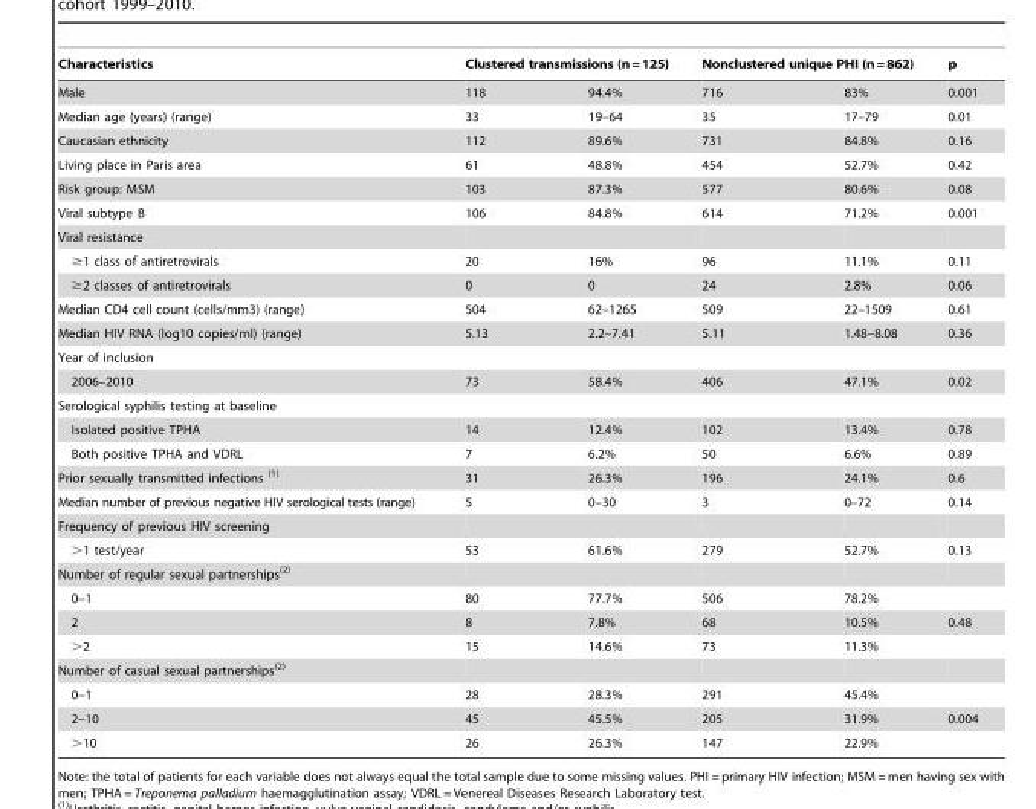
<table><thead><tr><td rowspan="2">Characteristics Male</td><td colspan="2">Clustered transmissions (n=125)</td><td colspan="2">Nonclustered unique PHI (n=862)</td><td rowspan="2">p 0.001</td></tr><tr><td>118</td><td>94.4%</td><td>716</td><td>83%</td></tr></thead><tbody><tr><td>Median age (years) (range)</td><td>33</td><td>19–64</td><td>35</td><td>17–79</td><td>0.01</td></tr><tr><td>Caucasian ethnicity</td><td>112</td><td>89.6%</td><td>731</td><td>84.8%</td><td>0.16</td></tr><tr><td>Living place in Paris area</td><td>61</td><td>48.8%</td><td>454</td><td>52.7%</td><td>0.42</td></tr><tr><td>Risk group: MSM</td><td>103</td><td>87.3%</td><td>577</td><td>80.6%</td><td>0.08</td></tr><tr><td>Viral subtype B</td><td>106</td><td>84.8%</td><td>614</td><td>71.2%</td><td>0.001</td></tr><tr><td colspan="6">Viral resistance</td></tr><tr><td>≥1 class of antiretrovirals</td><td>20</td><td>16%</td><td>96</td><td>11.1%</td><td>0.11</td></tr><tr><td>≥2 classes of antiretrovirals</td><td>0</td><td>0</td><td>24</td><td>2.8%</td><td>0.06</td></tr><tr><td>Median CD4 cell count (cells/mm3) (range)</td><td>504</td><td>62–1265</td><td>509</td><td>22–1509</td><td>0.61</td></tr><tr><td>Median HIV RNA (log10 copies/ml) (range)</td><td>5.13</td><td>2.2–7.41</td><td>5.11</td><td>1.48–8.08</td><td>0.36</td></tr><tr><td colspan="6">Year of inclusion</td></tr><tr><td>2006–2010</td><td>73</td><td>58.4%</td><td>406</td><td>47.1%</td><td>0.02</td></tr><tr><td colspan="6">Serological syphilis testing at baseline</td></tr><tr><td>Isolated positive TPHA</td><td>14</td><td>12.4%</td><td>102</td><td>13.4%</td><td>0.78</td></tr><tr><td>Both positive TPHA and VDRL</td><td>7</td><td>6.2%</td><td>50</td><td>6.6%</td><td>0.89</td></tr><tr><td>Prior sexually transmitted infections (1)</td><td>31</td><td>26.3%</td><td>196</td><td>24.1%</td><td>0.6</td></tr><tr><td>Median number of previous negative HIV serological tests (range)</td><td>5</td><td>0–30</td><td>3</td><td>0–72</td><td>0.14</td></tr><tr><td colspan="6">Frequency of previous HIV screening</td></tr><tr><td>&gt;1 test/year</td><td>53</td><td>61.6%</td><td>279</td><td>52.7%</td><td>0.13</td></tr><tr><td colspan="6">Number of regular sexual partnerships(2)</td></tr><tr><td>0–1</td><td>80</td><td>77.7%</td><td>506</td><td>78.2%</td><td></td></tr><tr><td>2</td><td>8</td><td>7.8%</td><td>68</td><td>10.5%</td><td>0.48</td></tr><tr><td>&gt;2</td><td>15</td><td>14.6%</td><td>73</td><td>11.3%</td><td></td></tr><tr><td colspan="6">Number of casual sexual partnerships(2)</td></tr><tr><td>0–1</td><td>28</td><td>28.3%</td><td>291</td><td>45.4%</td><td></td></tr><tr><td>2–10</td><td>45</td><td>45.5%</td><td>205</td><td>31.9%</td><td>0.004</td></tr><tr><td>&gt;10</td><td>26</td><td>26.3%</td><td>147</td><td>22.9%</td><td></td></tr></tbody></table>